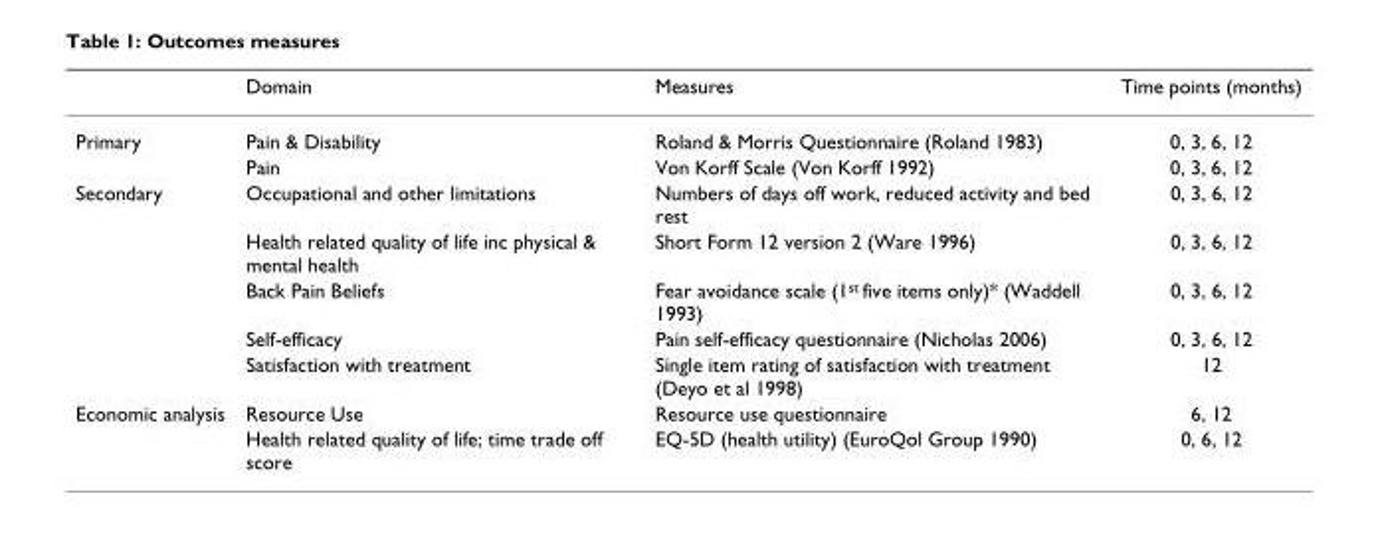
<table><thead><tr><td></td><td>Domain</td><td>Measures</td><td>Time points (months)</td></tr></thead><tbody><tr><td rowspan="2">Primary</td><td>Pain &amp; Disability</td><td>Roland &amp; Morris Questionnaire (Roland 1983)</td><td>0, 3, 6, 12</td></tr><tr><td>Pain</td><td>Von Korff Scale (Von Korff 1992)</td><td>0, 3, 6, 12</td></tr><tr><td rowspan="5">Secondary</td><td>Occupational and other limitations</td><td>Numbers of days off work, reduced activity and bed rest</td><td>0, 3, 6, 12</td></tr><tr><td>Health related quality of life inc physical &amp; mental health</td><td>Short Form 12 version 2 (Ware 1996)</td><td>0, 3, 6, 12</td></tr><tr><td>Back Pain Beliefs</td><td>Fear avoidance scale (1<sup>st</sup> five items only)* (Waddell 1993)</td><td>0, 3, 6, 12</td></tr><tr><td>Self-efficacy</td><td>Pain self-efficacy questionnaire (Nicholas 2006)</td><td>0, 3, 6, 12</td></tr><tr><td>Satisfaction with treatment</td><td>Single item rating of satisfaction with treatment (Deyo et al 1998)</td><td>12</td></tr><tr><td rowspan="2">Economic analysis</td><td>Resource Use</td><td>Resource use questionnaire</td><td>6, 12</td></tr><tr><td>Health related quality of life; time trade off score</td><td>EQ-5D (health utility) (EuroQol Group 1990)</td><td>0, 6, 12</td></tr></tbody></table>